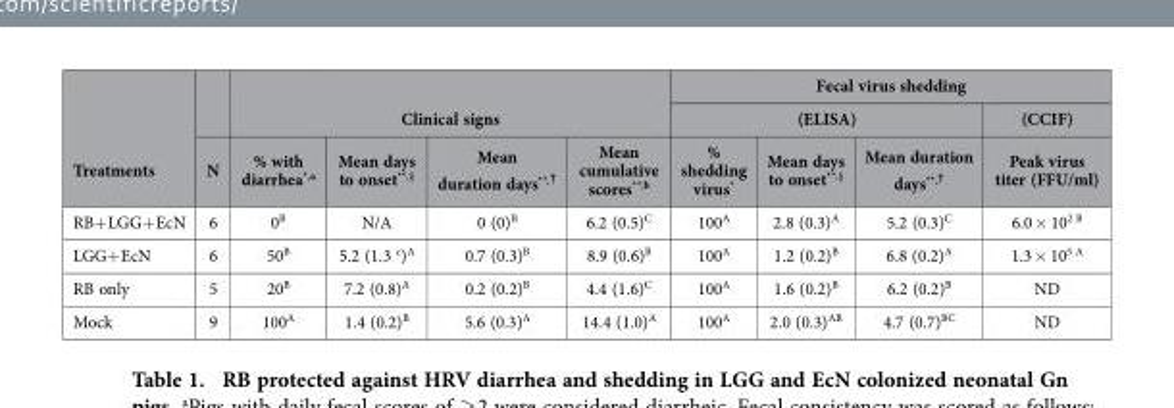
<table><thead><tr><td rowspan="3">Treatments</td><td rowspan="3">N</td><td></td><td></td><td></td><td></td><td colspan="4">Fecal virus shedding</td></tr><tr><td colspan="4">Clinical signs</td><td colspan="3">(ELISA)</td><td rowspan="2">(CCIF) Peak virus titer (FFU/ml)</td></tr><tr><td>% with diarrhea*,<sup>a</sup></td><td>Mean days to onset**,§</td><td>Mean duration days**,†</td><td>Mean cumulative scores**,<sup>b</sup></td><td>% shedding virus*</td><td>Mean days to onset**,§</td><td>Mean duration days**,†</td></tr></thead><tbody><tr><td>RB+ LGG+ EcN</td><td>6</td><td>0<sup>B</sup></td><td>N/A</td><td>0 (0)<sup>B</sup></td><td>6.2 (0.5)<sup>C</sup></td><td>100<sup>A</sup></td><td>2.8 (0.3)<sup>A</sup></td><td>5.2 (0.3)<sup>C</sup></td><td>6.0 × 10<sup>2 B</sup></td></tr><tr><td>LGG+ EcN</td><td>6</td><td>50<sup>B</sup></td><td>5.2 (1.3 c)<sup>A</sup></td><td>0.7 (0.3)<sup>B</sup></td><td>8.9 (0.6)<sup>B</sup></td><td>100<sup>A</sup></td><td>1.2 (0.2)<sup>B</sup></td><td>6.8 (0.2)<sup>A</sup></td><td>1.3 × 10<sup>5 A</sup></td></tr><tr><td>RB only</td><td>5</td><td>20<sup>B</sup></td><td>7.2 (0.8)<sup>A</sup></td><td>0.2 (0.2)<sup>B</sup></td><td>4.4 (1.6)<sup>C</sup></td><td>100<sup>A</sup></td><td>1.6 (0.2)<sup>B</sup></td><td>6.2 (0.2)<sup>B</sup></td><td>ND</td></tr><tr><td>Mock</td><td>9</td><td>100<sup>A</sup></td><td>1.4 (0.2)<sup>B</sup></td><td>5.6 (0.3)<sup>A</sup></td><td>14.4 (1.0)<sup>A</sup></td><td>100<sup>A</sup></td><td>2.0 (0.3)<sup>AB</sup></td><td>4.7 (0.7)<sup>BC</sup></td><td>ND</td></tr></tbody></table>